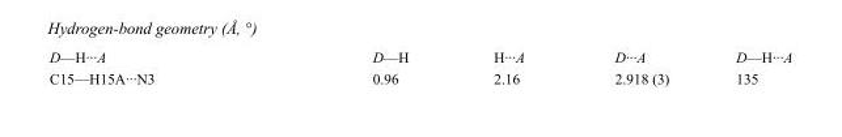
<table><tbody><tr><td>D—H···A</td><td>D—H</td><td>H···A</td><td>D···A</td><td>D—H···A</td></tr><tr><td>C15—H15A···N3</td><td>0.96</td><td>2.16</td><td>2.918 (3)</td><td>135</td></tr></tbody></table>